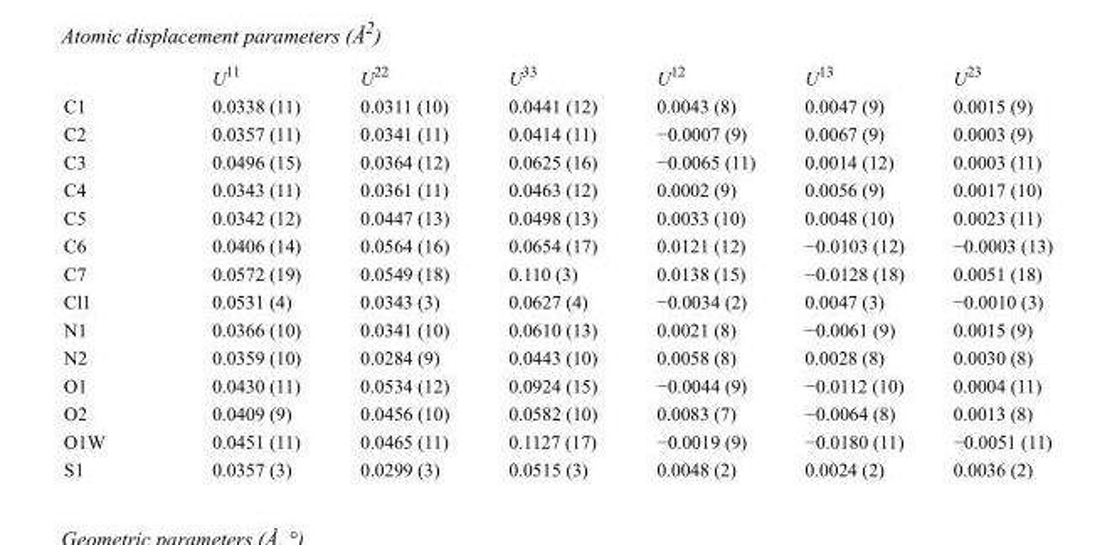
<table><thead><tr><td></td><td>U<sup>11</sup></td><td>U<sup>22</sup></td><td>U<sup>33</sup></td><td>U<sup>12</sup></td><td>U<sup>13</sup></td><td>U<sup>23</sup></td></tr></thead><tbody><tr><td>C1</td><td>0.0338 (11)</td><td>0.0311 (10)</td><td>0.0441 (12)</td><td>0.0043 (8)</td><td>0.0047 (9)</td><td>0.0015 (9)</td></tr><tr><td>C2</td><td>0.0357 (11)</td><td>0.0341 (11)</td><td>0.0414 (11)</td><td>−0.0007 (9)</td><td>0.0067 (9)</td><td>0.0003 (9)</td></tr><tr><td>C3</td><td>0.0496 (15)</td><td>0.0364 (12)</td><td>0.0625 (16)</td><td>−0.0065 (11)</td><td>0.0014 (12)</td><td>0.0003 (11)</td></tr><tr><td>C4</td><td>0.0343 (11)</td><td>0.0361 (11)</td><td>0.0463 (12)</td><td>0.0002 (9)</td><td>0.0056 (9)</td><td>0.0017 (10)</td></tr><tr><td>C5</td><td>0.0342 (12)</td><td>0.0447 (13)</td><td>0.0498 (13)</td><td>0.0033 (10)</td><td>0.0048 (10)</td><td>0.0023 (11)</td></tr><tr><td>C6</td><td>0.0406 (14)</td><td>0.0564 (16)</td><td>0.0654 (17)</td><td>0.0121 (12)</td><td>−0.0103 (12)</td><td>−0.0003 (13)</td></tr><tr><td>C7</td><td>0.0572 (19)</td><td>0.0549 (18)</td><td>0.110 (3)</td><td>0.0138 (15)</td><td>−0.0128 (18)</td><td>0.0051 (18)</td></tr><tr><td>Cl1</td><td>0.0531 (4)</td><td>0.0343 (3)</td><td>0.0627 (4)</td><td>−0.0034 (2)</td><td>0.0047 (3)</td><td>−0.0010 (3)</td></tr><tr><td>N1</td><td>0.0366 (10)</td><td>0.0341 (10)</td><td>0.0610 (13)</td><td>0.0021 (8)</td><td>−0.0061 (9)</td><td>0.0015 (9)</td></tr><tr><td>N2</td><td>0.0359 (10)</td><td>0.0284 (9)</td><td>0.0443 (10)</td><td>0.0058 (8)</td><td>0.0028 (8)</td><td>0.0030 (8)</td></tr><tr><td>O1</td><td>0.0430 (11)</td><td>0.0534 (12)</td><td>0.0924 (15)</td><td>−0.0044 (9)</td><td>−0.0112 (10)</td><td>0.0004 (11)</td></tr><tr><td>O2</td><td>0.0409 (9)</td><td>0.0456 (10)</td><td>0.0582 (10)</td><td>0.0083 (7)</td><td>−0.0064 (8)</td><td>0.0013 (8)</td></tr><tr><td>O1W</td><td>0.0451 (11)</td><td>0.0465 (11)</td><td>0.1127 (17)</td><td>−0.0019 (9)</td><td>−0.0180 (11)</td><td>−0.0051 (11)</td></tr><tr><td>S1</td><td>0.0357 (3)</td><td>0.0299 (3)</td><td>0.0515 (3)</td><td>0.0048 (2)</td><td>0.0024 (2)</td><td>0.0036 (2)</td></tr></tbody></table>